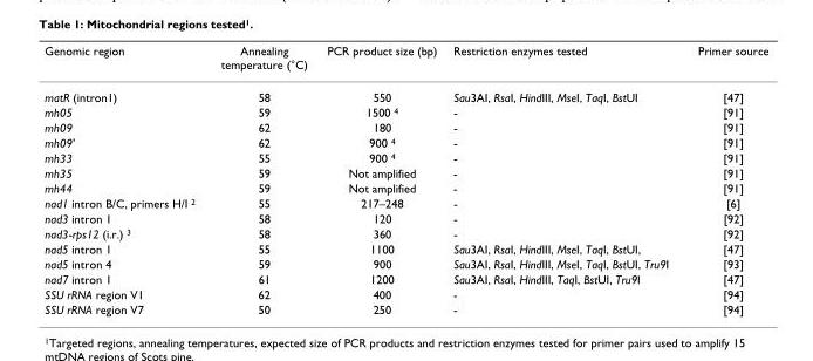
<table><thead><tr><td>Genomic region</td><td>Annealing temperature (°C)</td><td>PCR product size (bp)</td><td>Restriction enzymes tested</td><td>Primer source</td></tr></thead><tbody><tr><td>matR (intron1)</td><td>58</td><td>550</td><td>Sau3AI, RsaI, HindIII, MseI, TaqI, BstUI</td><td>[47]</td></tr><tr><td>mh05</td><td>59</td><td>1500 <sup>4</sup></td><td>-</td><td>[91]</td></tr><tr><td>mh09</td><td>62</td><td>180</td><td>-</td><td>[91]</td></tr><tr><td>mh09&#x27;</td><td>62</td><td>900 <sup>4</sup></td><td>-</td><td>[91]</td></tr><tr><td>mh33</td><td>55</td><td>900 <sup>4</sup></td><td>-</td><td>[91]</td></tr><tr><td>mh35</td><td>59</td><td>Not amplified</td><td>-</td><td>[91]</td></tr><tr><td>mh44</td><td>59</td><td>Not amplified</td><td>-</td><td>[91]</td></tr><tr><td>nad1 intron B/C, primers H/I <sup>2</sup></td><td>55</td><td>217–248</td><td>-</td><td>[6]</td></tr><tr><td>nad3 intron 1</td><td>58</td><td>120</td><td>-</td><td>[92]</td></tr><tr><td>nad3-rps12 (i.r.) <sup>3</sup></td><td>58</td><td>360</td><td>-</td><td>[92]</td></tr><tr><td>nad5 intron 1</td><td>55</td><td>1100</td><td>Sau3AI, RsaI, HindIII, MseI, TaqI, BstUI,</td><td>[47]</td></tr><tr><td>nad5 intron 4</td><td>59</td><td>900</td><td>Sau3AI, RsaI, HindIII, MseI, TaqI, BstUI, Tru9I</td><td>[93]</td></tr><tr><td>nad7 intron 1</td><td>61</td><td>1200</td><td>Sau3AI, RsaI, HindIII, TaqI, BstUI, Tru9I</td><td>[47]</td></tr><tr><td>SSU rRNA region V1</td><td>62</td><td>400</td><td>-</td><td>[94]</td></tr><tr><td>SSU rRNA region V7</td><td>50</td><td>250</td><td>-</td><td>[94]</td></tr></tbody></table>